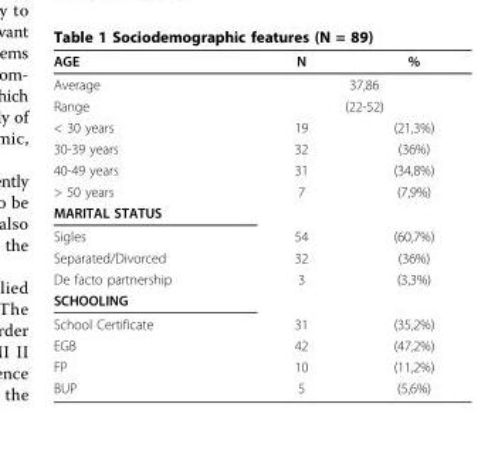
<table><thead><tr><td>AGE</td><td>N</td><td>%</td></tr></thead><tbody><tr><td>Average</td><td colspan="2">37,86</td></tr><tr><td>Range</td><td colspan="2">(22-52)</td></tr><tr><td>&lt; 30 years</td><td>19</td><td>(21,3%)</td></tr><tr><td>30-39 years</td><td>32</td><td>(36%)</td></tr><tr><td>40-49 years</td><td>31</td><td>(34,8%)</td></tr><tr><td>&gt; 50 years</td><td>7</td><td>(7,9%)</td></tr><tr><td colspan="3">MARITAL STATUS</td></tr><tr><td>Sigles</td><td>54</td><td>(60,7%)</td></tr><tr><td>Separated/Divorced</td><td>32</td><td>(36%)</td></tr><tr><td>De facto partnership</td><td>3</td><td>(3,3%)</td></tr><tr><td colspan="3">SCHOOLING</td></tr><tr><td>School Certificate</td><td>31</td><td>(35,2%)</td></tr><tr><td>EGB</td><td>42</td><td>(47,2%)</td></tr><tr><td>FP</td><td>10</td><td>(11,2%)</td></tr><tr><td>BUP</td><td>5</td><td>(5,6%)</td></tr></tbody></table>